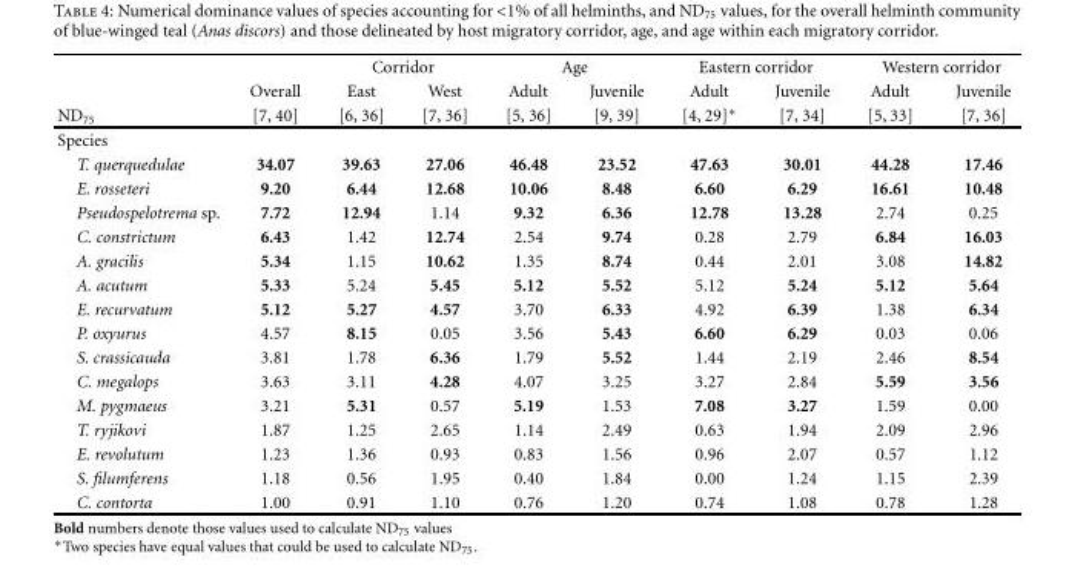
<table><thead><tr><td rowspan="3">ND<sub>75</sub></td><td rowspan="3">Overall [7, 40]</td><td colspan="2">Corridor</td><td colspan="2">Age</td><td colspan="2">Eastern corridor</td><td colspan="2">Western corridor</td></tr><tr><td rowspan="2">East [6, 36]</td><td rowspan="2">West [7, 36]</td><td rowspan="2">Adult [5, 36]</td><td rowspan="2">Juvenile [9, 39]</td><td rowspan="2">Adult [4, 29]∗</td><td rowspan="2">Juvenile [7, 34]</td><td rowspan="2">Adult [5, 33]</td><td rowspan="2">Juvenile [7, 36]</td></tr><tr></tr></thead><tbody><tr><td colspan="10">Species</td></tr><tr><td>T. querquedulae</td><td>34.07</td><td>39.63</td><td>27.06</td><td>46.48</td><td>23.52</td><td>47.63</td><td>30.01</td><td>44.28</td><td>17.46</td></tr><tr><td>E. rosseteri</td><td>9.20</td><td>6.44</td><td>12.68</td><td>10.06</td><td>8.48</td><td>6.60</td><td>6.29</td><td>16.61</td><td>10.48</td></tr><tr><td>Pseudospelotrema sp.</td><td>7.72</td><td>12.94</td><td>1.14</td><td>9.32</td><td>6.36</td><td>12.78</td><td>13.28</td><td>2.74</td><td>0.25</td></tr><tr><td>C. constrictum</td><td>6.43</td><td>1.42</td><td>12.74</td><td>2.54</td><td>9.74</td><td>0.28</td><td>2.79</td><td>6.84</td><td>16.03</td></tr><tr><td>A. gracilis</td><td>5.34</td><td>1.15</td><td>10.62</td><td>1.35</td><td>8.74</td><td>0.44</td><td>2.01</td><td>3.08</td><td>14.82</td></tr><tr><td>A. acutum</td><td>5.33</td><td>5.24</td><td>5.45</td><td>5.12</td><td>5.52</td><td>5.12</td><td>5.24</td><td>5.12</td><td>5.64</td></tr><tr><td>E. recurvatum</td><td>5.12</td><td>5.27</td><td>4.57</td><td>3.70</td><td>6.33</td><td>4.92</td><td>6.39</td><td>1.38</td><td>6.34</td></tr><tr><td>P. oxyurus</td><td>4.57</td><td>8.15</td><td>0.05</td><td>3.56</td><td>5.43</td><td>6.60</td><td>6.29</td><td>0.03</td><td>0.06</td></tr><tr><td>S. crassicauda</td><td>3.81</td><td>1.78</td><td>6.36</td><td>1.79</td><td>5.52</td><td>1.44</td><td>2.19</td><td>2.46</td><td>8.54</td></tr><tr><td>C. megalops</td><td>3.63</td><td>3.11</td><td>4.28</td><td>4.07</td><td>3.25</td><td>3.27</td><td>2.84</td><td>5.59</td><td>3.56</td></tr><tr><td>M. pygmaeus</td><td>3.21</td><td>5.31</td><td>0.57</td><td>5.19</td><td>1.53</td><td>7.08</td><td>3.27</td><td>1.59</td><td>0.00</td></tr><tr><td>T. ryjikovi</td><td>1.87</td><td>1.25</td><td>2.65</td><td>1.14</td><td>2.49</td><td>0.63</td><td>1.94</td><td>2.09</td><td>2.96</td></tr><tr><td>E. revolutum</td><td>1.23</td><td>1.36</td><td>0.93</td><td>0.83</td><td>1.56</td><td>0.96</td><td>2.07</td><td>0.57</td><td>1.12</td></tr><tr><td>S. filumferens</td><td>1.18</td><td>0.56</td><td>1.95</td><td>0.40</td><td>1.84</td><td>0.00</td><td>1.24</td><td>1.15</td><td>2.39</td></tr><tr><td>C. contorta</td><td>1.00</td><td>0.91</td><td>1.10</td><td>0.76</td><td>1.20</td><td>0.74</td><td>1.08</td><td>0.78</td><td>1.28</td></tr></tbody></table>